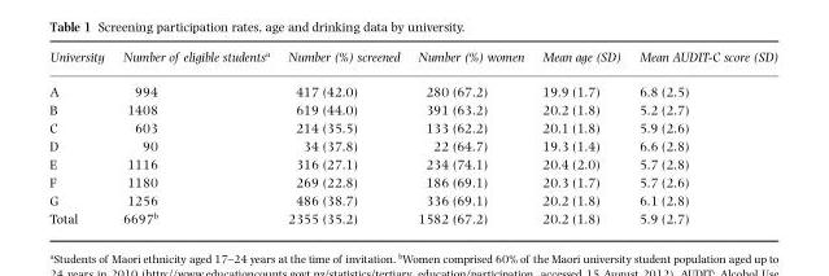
<table><thead><tr><td>University</td><td>Number of eligible students<sup>a</sup></td><td>Number (%) screened</td><td>Number (%) women</td><td>Mean age (SD)</td><td>Mean AUDIT-C score (SD)</td></tr></thead><tbody><tr><td>A</td><td>994</td><td>417 (42.0)</td><td>280 (67.2)</td><td>19.9 (1.7)</td><td>6.8 (2.5)</td></tr><tr><td>B</td><td>1408</td><td>619 (44.0)</td><td>391 (63.2)</td><td>20.2 (1.8)</td><td>5.2 (2.7)</td></tr><tr><td>C</td><td>603</td><td>214 (35.5)</td><td>133 (62.2)</td><td>20.1 (1.8)</td><td>5.9 (2.6)</td></tr><tr><td>D</td><td>90</td><td>34 (37.8)</td><td>22 (64.7)</td><td>19.3 (1.4)</td><td>6.6 (2.8)</td></tr><tr><td>E</td><td>1116</td><td>316 (27.1)</td><td>234 (74.1)</td><td>20.4 (2.0)</td><td>5.7 (2.8)</td></tr><tr><td>F</td><td>1180</td><td>269 (22.8)</td><td>186 (69.1)</td><td>20.3 (1.7)</td><td>5.7 (2.6)</td></tr><tr><td>G</td><td>1256</td><td>486 (38.7)</td><td>336 (69.1)</td><td>20.2 (1.8)</td><td>6.1 (2.8)</td></tr><tr><td>Total</td><td>6697<sup>b</sup></td><td>2355 (35.2)</td><td>1582 (67.2)</td><td>20.2 (1.8)</td><td>5.9 (2.7)</td></tr></tbody></table>